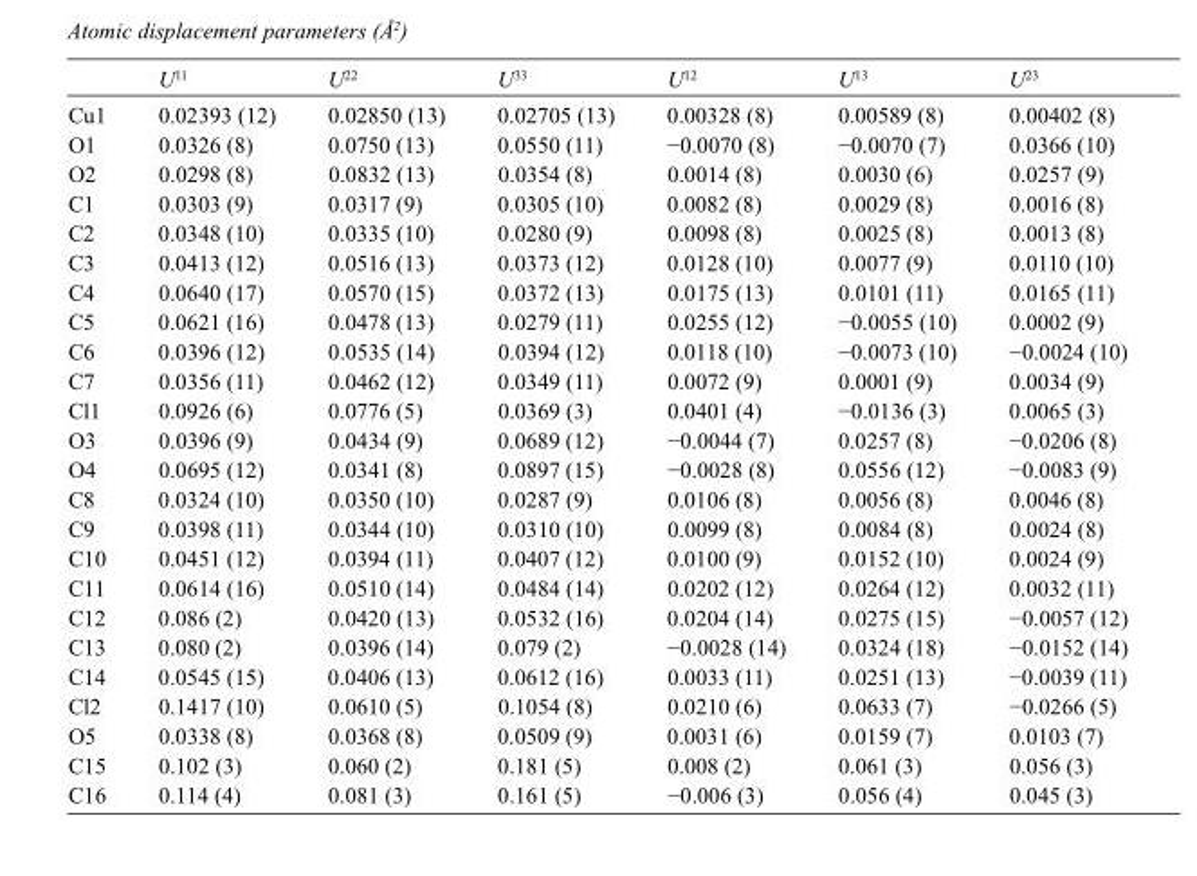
<table><thead><tr><td></td><td>U<sup>11</sup></td><td>U<sup>22</sup></td><td>U<sup>33</sup></td><td>U<sup>12</sup></td><td>U<sup>13</sup></td><td>U<sup>23</sup></td></tr></thead><tbody><tr><td>Cu1</td><td>0.02393 (12)</td><td>0.02850 (13)</td><td>0.02705 (13)</td><td>0.00328 (8)</td><td>0.00589 (8)</td><td>0.00402 (8)</td></tr><tr><td>O1</td><td>0.0326 (8)</td><td>0.0750 (13)</td><td>0.0550 (11)</td><td>−0.0070 (8)</td><td>−0.0070 (7)</td><td>0.0366 (10)</td></tr><tr><td>O2</td><td>0.0298 (8)</td><td>0.0832 (13)</td><td>0.0354 (8)</td><td>0.0014 (8)</td><td>0.0030 (6)</td><td>0.0257 (9)</td></tr><tr><td>C1</td><td>0.0303 (9)</td><td>0.0317 (9)</td><td>0.0305 (10)</td><td>0.0082 (8)</td><td>0.0029 (8)</td><td>0.0016 (8)</td></tr><tr><td>C2</td><td>0.0348 (10)</td><td>0.0335 (10)</td><td>0.0280 (9)</td><td>0.0098 (8)</td><td>0.0025 (8)</td><td>0.0013 (8)</td></tr><tr><td>C3</td><td>0.0413 (12)</td><td>0.0516 (13)</td><td>0.0373 (12)</td><td>0.0128 (10)</td><td>0.0077 (9)</td><td>0.0110 (10)</td></tr><tr><td>C4</td><td>0.0640 (17)</td><td>0.0570 (15)</td><td>0.0372 (13)</td><td>0.0175 (13)</td><td>0.0101 (11)</td><td>0.0165 (11)</td></tr><tr><td>C5</td><td>0.0621 (16)</td><td>0.0478 (13)</td><td>0.0279 (11)</td><td>0.0255 (12)</td><td>−0.0055 (10)</td><td>0.0002 (9)</td></tr><tr><td>C6</td><td>0.0396 (12)</td><td>0.0535 (14)</td><td>0.0394 (12)</td><td>0.0118 (10)</td><td>−0.0073 (10)</td><td>−0.0024 (10)</td></tr><tr><td>C7</td><td>0.0356 (11)</td><td>0.0462 (12)</td><td>0.0349 (11)</td><td>0.0072 (9)</td><td>0.0001 (9)</td><td>0.0034 (9)</td></tr><tr><td>Cl1</td><td>0.0926 (6)</td><td>0.0776 (5)</td><td>0.0369 (3)</td><td>0.0401 (4)</td><td>−0.0136 (3)</td><td>0.0065 (3)</td></tr><tr><td>O3</td><td>0.0396 (9)</td><td>0.0434 (9)</td><td>0.0689 (12)</td><td>−0.0044 (7)</td><td>0.0257 (8)</td><td>−0.0206 (8)</td></tr><tr><td>O4</td><td>0.0695 (12)</td><td>0.0341 (8)</td><td>0.0897 (15)</td><td>−0.0028 (8)</td><td>0.0556 (12)</td><td>−0.0083 (9)</td></tr><tr><td>C8</td><td>0.0324 (10)</td><td>0.0350 (10)</td><td>0.0287 (9)</td><td>0.0106 (8)</td><td>0.0056 (8)</td><td>0.0046 (8)</td></tr><tr><td>C9</td><td>0.0398 (11)</td><td>0.0344 (10)</td><td>0.0310 (10)</td><td>0.0099 (8)</td><td>0.0084 (8)</td><td>0.0024 (8)</td></tr><tr><td>C10</td><td>0.0451 (12)</td><td>0.0394 (11)</td><td>0.0407 (12)</td><td>0.0100 (9)</td><td>0.0152 (10)</td><td>0.0024 (9)</td></tr><tr><td>C11</td><td>0.0614 (16)</td><td>0.0510 (14)</td><td>0.0484 (14)</td><td>0.0202 (12)</td><td>0.0264 (12)</td><td>0.0032 (11)</td></tr><tr><td>C12</td><td>0.086 (2)</td><td>0.0420 (13)</td><td>0.0532 (16)</td><td>0.0204 (14)</td><td>0.0275 (15)</td><td>−0.0057 (12)</td></tr><tr><td>C13</td><td>0.080 (2)</td><td>0.0396 (14)</td><td>0.079 (2)</td><td>−0.0028 (14)</td><td>0.0324 (18)</td><td>−0.0152 (14)</td></tr><tr><td>C14</td><td>0.0545 (15)</td><td>0.0406 (13)</td><td>0.0612 (16)</td><td>0.0033 (11)</td><td>0.0251 (13)</td><td>−0.0039 (11)</td></tr><tr><td>Cl2</td><td>0.1417 (10)</td><td>0.0610 (5)</td><td>0.1054 (8)</td><td>0.0210 (6)</td><td>0.0633 (7)</td><td>−0.0266 (5)</td></tr><tr><td>O5</td><td>0.0338 (8)</td><td>0.0368 (8)</td><td>0.0509 (9)</td><td>0.0031 (6)</td><td>0.0159 (7)</td><td>0.0103 (7)</td></tr><tr><td>C15</td><td>0.102 (3)</td><td>0.060 (2)</td><td>0.181 (5)</td><td>0.008 (2)</td><td>0.061 (3)</td><td>0.056 (3)</td></tr><tr><td>C16</td><td>0.114 (4)</td><td>0.081 (3)</td><td>0.161 (5)</td><td>−0.006 (3)</td><td>0.056 (4)</td><td>0.045 (3)</td></tr></tbody></table>